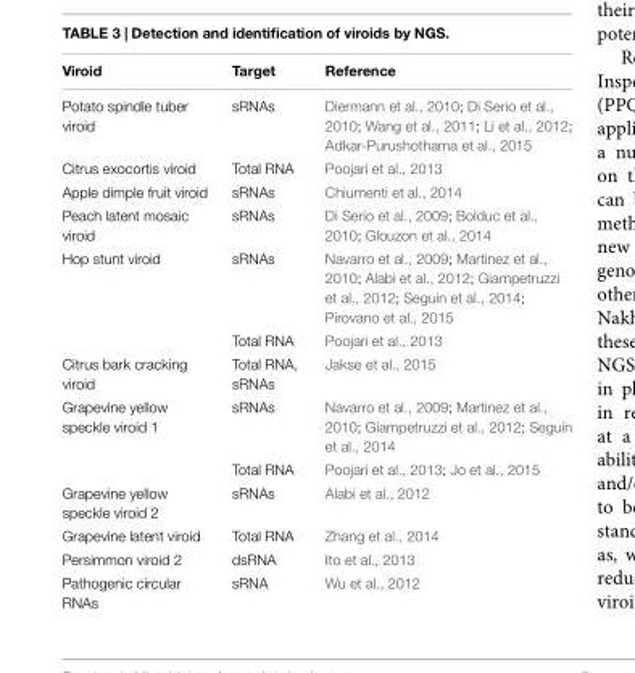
<table><thead><tr><td>Viroid</td><td>Target</td><td>Reference</td></tr></thead><tbody><tr><td>Potato spindle tuber viroid</td><td>sRNAs</td><td>Diermann et al., 2010; Di Serio et al., 2010; Wang et al., 2011; Li et al., 2012; Adkar-Purushothama et al., 2015</td></tr><tr><td>Citrus exocortis viroid</td><td>Total RNA</td><td>Poojari et al., 2013</td></tr><tr><td>Apple dimple fruit viroid</td><td>sRNAs</td><td>Chiumenti et al., 2014</td></tr><tr><td>Peach latent mosaic viroid</td><td>sRNAs</td><td>Di Serio et al., 2009; Bolduc et al., 2010; Glouzon et al., 2014</td></tr><tr><td rowspan="2">Hop stunt viroid</td><td>sRNAs</td><td>Navarro et al., 2009; Martinez et al., 2010; Alabi et al., 2012; Giampetruzzi et al., 2012; Seguin et al., 2014; Pirovano et al., 2015</td></tr><tr><td>Total RNA</td><td>Poojari et al., 2013</td></tr><tr><td>Citrus bark cracking viroid</td><td>Total RNA, sRNAs</td><td>Jakse et al., 2015</td></tr><tr><td rowspan="2">Grapevine yellow speckle viroid 1</td><td>sRNAs</td><td>Navarro et al., 2009; Martinez et al., 2010; Giampetruzzi et al., 2012; Seguin et al., 2014</td></tr><tr><td>Total RNA</td><td>Poojari et al., 2013; Jo et al., 2015</td></tr><tr><td>Grapevine yellow speckle viroid 2</td><td>sRNAs</td><td>Alabi et al., 2012</td></tr><tr><td>Grapevine latent viroid</td><td>Total RNA</td><td>Zhang et al., 2014</td></tr><tr><td>Persimmon viroid 2</td><td>dsRNA</td><td>Ito et al., 2013</td></tr><tr><td>Pathogenic circular RNAs</td><td>sRNA</td><td>Wu et al., 2012</td></tr></tbody></table>